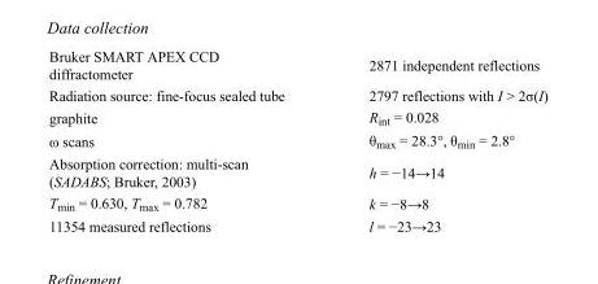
<table><tbody><tr><td>Bruker SMART APEX CCD diffractometer</td><td>2871 independent reflections</td></tr><tr><td>Radiation source: fine-focus sealed tube</td><td>2797 reflections with I &gt; 2σ(I)</td></tr><tr><td>graphite</td><td>R<sub>int</sub> = 0.028</td></tr><tr><td>ω scans</td><td>θ<sub>max</sub> = 28.3°, θ<sub>min</sub> = 2.8°</td></tr><tr><td>Absorption correction: multi-scan (SADABS; Bruker, 2003)</td><td>h = −14→14</td></tr><tr><td>T<sub>min</sub> = 0.630, T<sub>max</sub> = 0.782</td><td>k = −8→8</td></tr><tr><td>11354 measured reflections</td><td>l = −23→23</td></tr></tbody></table>